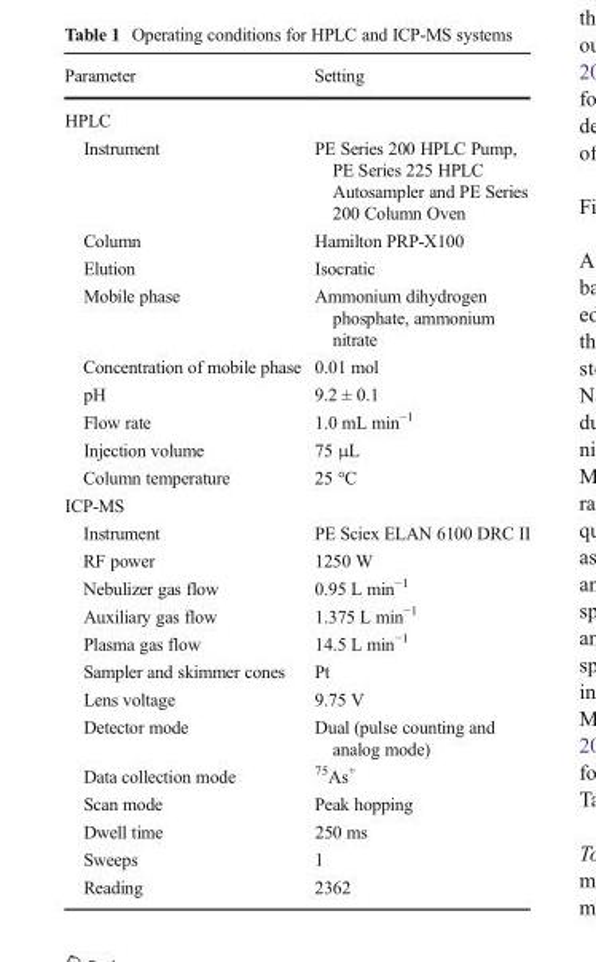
<table><thead><tr><td>Parameter</td><td>Setting</td></tr></thead><tbody><tr><td colspan="2">HPLC</td></tr><tr><td>Instrument</td><td>PE Series 200 HPLC Pump, PE Series 225 HPLC Autosampler and PE Series 200 Column Oven</td></tr><tr><td>Column</td><td>Hamilton PRP-X100</td></tr><tr><td>Elution</td><td>Isocratic</td></tr><tr><td>Mobile phase</td><td>Ammonium dihydrogen phosphate, ammonium nitrate</td></tr><tr><td>Concentration of mobile phase</td><td>0.01 mol</td></tr><tr><td>pH</td><td>9.2 ± 0.1</td></tr><tr><td>Flow rate</td><td>1.0 mL min<sup>−1</sup></td></tr><tr><td>Injection volume</td><td>75 μL</td></tr><tr><td>Column temperature</td><td>25 °C</td></tr><tr><td colspan="2">ICP-MS</td></tr><tr><td>Instrument</td><td>PE Sciex ELAN 6100 DRC II</td></tr><tr><td>RF power</td><td>1250 W</td></tr><tr><td>Nebulizer gas flow</td><td>0.95 L min<sup>−1</sup></td></tr><tr><td>Auxiliary gas flow</td><td>1.375 L min<sup>−1</sup></td></tr><tr><td>Plasma gas flow</td><td>14.5 L min<sup>−1</sup></td></tr><tr><td>Sampler and skimmer cones</td><td>Pt</td></tr><tr><td>Lens voltage</td><td>9.75 V</td></tr><tr><td>Detector mode</td><td>Dual (pulse counting and analog mode)</td></tr><tr><td>Data collection mode</td><td><sup>75</sup>As<sup>+</sup></td></tr><tr><td>Scan mode</td><td>Peak hopping</td></tr><tr><td>Dwell time</td><td>250 ms</td></tr><tr><td>Sweeps</td><td>1</td></tr><tr><td>Reading</td><td>2362</td></tr></tbody></table>